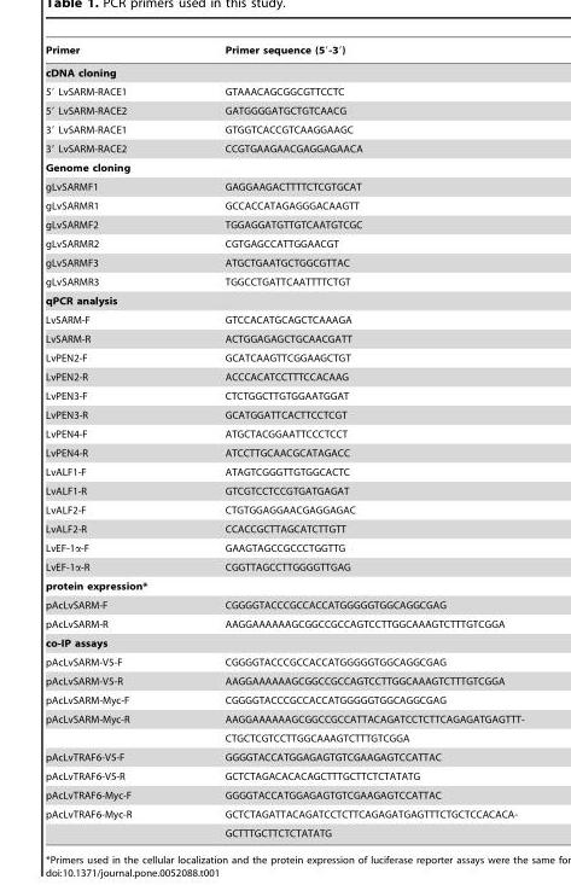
<table><thead><tr><td>Primer</td><td>Primer sequence (5′-3′)</td></tr></thead><tbody><tr><td colspan="2">cDNA cloning</td></tr><tr><td>5′ LvSARM-RACE1</td><td>GTAAACAGCGGCGTTCCTC</td></tr><tr><td>5′ LvSARM-RACE2</td><td>GATGGGGATGCTGTCAACG</td></tr><tr><td>3′ LvSARM-RACE1</td><td>GTGGTCACCGTCAAGGAAGC</td></tr><tr><td>3′ LvSARM-RACE2</td><td>CCGTGAAGAACGAGGAGAACA</td></tr><tr><td colspan="2">Genome cloning</td></tr><tr><td>gLvSARMF1</td><td>GAGGAAGACTTTTCTCGTGCAT</td></tr><tr><td>gLvSARMR1</td><td>GCCACCATAGAGGGACAAGTT</td></tr><tr><td>gLvSARMF2</td><td>TGGAGGATGTTGTCAATGTCGC</td></tr><tr><td>gLvSARMR2</td><td>CGTGAGCCATTGGAACGT</td></tr><tr><td>gLvSARMF3</td><td>ATGCTGAATGCTGGCGTTAC</td></tr><tr><td>gLvSARMR3</td><td>TGGCCTGATTCAATTTTCTGT</td></tr><tr><td colspan="2">qPCR analysis</td></tr><tr><td>LvSARM-F</td><td>GTCCACATGCAGCTCAAAGA</td></tr><tr><td>LvSARM-R</td><td>ACTGGAGAGCTGCAACGATT</td></tr><tr><td>LvPEN2-F</td><td>GCATCAAGTTCGGAAGCTGT</td></tr><tr><td>LvPEN2-R</td><td>ACCCACATCCTTTCCACAAG</td></tr><tr><td>LvPEN3-F</td><td>CTCTGGCTTGTGGAATGGAT</td></tr><tr><td>LvPEN3-R</td><td>GCATGGATTCACTTCCTCGT</td></tr><tr><td>LvPEN4-F</td><td>ATGCTACGGAATTCCCTCCT</td></tr><tr><td>LvPEN4-R</td><td>ATCCTTGCAACGCATAGACC</td></tr><tr><td>LvALF1-F</td><td>ATAGTCGGGTTGTGGCACTC</td></tr><tr><td>LvALF1-R</td><td>GTCGTCCTCCGTGATGAGAT</td></tr><tr><td>LvALF2-F</td><td>CTGTGGAGGAACGAGGAGAC</td></tr><tr><td>LvALF2-R</td><td>CCACCGCTTAGCATCTTGTT</td></tr><tr><td>LvEF-1α-F</td><td>GAAGTAGCCGCCCTGGTTG</td></tr><tr><td>LvEF-1α-R</td><td>CGGTTAGCCTTGGGGTTGAG</td></tr><tr><td colspan="2">protein expression*</td></tr><tr><td>pAcLvSARM-F</td><td>CGGGGTACCCGCCACCATGGGGGTGGCAGGCGAG</td></tr><tr><td>pAcLvSARM-R</td><td>AAGGAAAAAAGCGGCCGCCAGTCCTTGGCAAAGTCTTTGTCGGA</td></tr><tr><td colspan="2">co-IP assays</td></tr><tr><td>pAcLvSARM-V5-F</td><td>CGGGGTACCCGCCACCATGGGGGTGGCAGGCGAG</td></tr><tr><td>pAcLvSARM-V5-R</td><td>AAGGAAAAAAGCGGCCGCCAGTCCTTGGCAAAGTCTTTGTCGGA</td></tr><tr><td>pAcLvSARM-Myc-F</td><td>CGGGGTACCCGCCACCATGGGGGTGGCAGGCGAG</td></tr><tr><td rowspan="2">pAcLvSARM-Myc-R</td><td>AAGGAAAAAAGCGGCCGCCATTACAGATCCTCTTCAGAGATGAGTTT-</td></tr><tr><td>CTGCTCGTCCTTGGCAAAGTCTTTGTCGGA</td></tr><tr><td>pAcLvTRAF6-V5-F</td><td>GGGGTACCATGGAGAGTGTCGAAGAGTCCATTAC</td></tr><tr><td>pAcLvTRAF6-V5-R</td><td>GCTCTAGACACACAGCTTTGCTTCTCTATATG</td></tr><tr><td>pAcLvTRAF6-Myc-F</td><td>GGGGTACCATGGAGAGTGTCGAAGAGTCCATTAC</td></tr><tr><td rowspan="2">pAcLvTRAF6-Myc-R</td><td>GCTCTAGATTACAGATCCTCTTCAGAGATGAGTTTCTGCTCCACACA-</td></tr><tr><td>GCTTTGCTTCTCTATATG</td></tr></tbody></table>